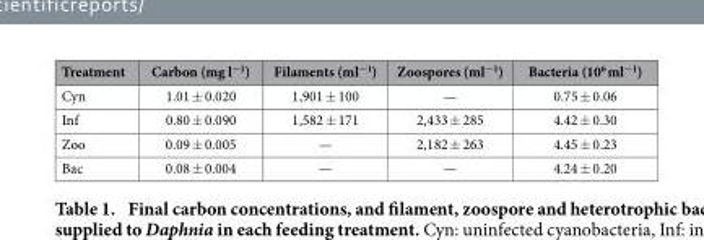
<table><thead><tr><td>Treatment</td><td>Carbon (mg l<sup>−1</sup>)</td><td>Filaments (ml<sup>−1</sup>)</td><td>Zoospores (ml<sup>−1</sup>)</td><td>Bacteria (10<sup>6</sup> ml<sup>−1</sup>)</td></tr></thead><tbody><tr><td>Cyn</td><td>1.01 ± 0.020</td><td>1,901 ± 100</td><td>—</td><td>0.75 ± 0.06</td></tr><tr><td>Inf</td><td>0.80 ± 0.090</td><td>1,582 ± 171</td><td>2,433 ± 285</td><td>4.42 ± 0.30</td></tr><tr><td>Zoo</td><td>0.09 ± 0.005</td><td>—</td><td>2,182 ± 263</td><td>4.45 ± 0.23</td></tr><tr><td>Bac</td><td>0.08 ± 0.004</td><td>—</td><td>—</td><td>4.24 ± 0.20</td></tr></tbody></table>